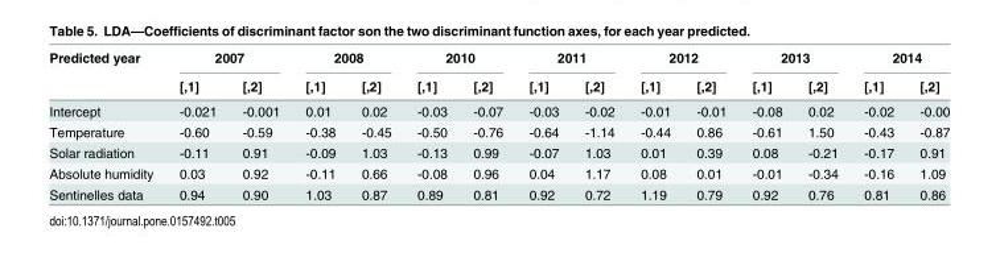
<table><thead><tr><td rowspan="2">Predicted year</td><td colspan="2">2007</td><td colspan="2">2008</td><td colspan="2">2010</td><td colspan="2">2011</td><td colspan="2">2012</td><td colspan="2">2013</td><td colspan="2">2014</td></tr><tr><td>[,1]</td><td>[,2]</td><td>[,1]</td><td>[,2]</td><td>[,1]</td><td>[,2]</td><td>[,1]</td><td>[,2]</td><td>[,1]</td><td>[,2]</td><td>[,1]</td><td>[,2]</td><td>[,1]</td><td>[,2]</td></tr></thead><tbody><tr><td>Intercept</td><td>-0.021</td><td>-0.001</td><td>0.01</td><td>0.02</td><td>-0.03</td><td>-0.07</td><td>-0.03</td><td>-0.02</td><td>-0.01</td><td>-0.01</td><td>-0.08</td><td>0.02</td><td>-0.02</td><td>-0.00</td></tr><tr><td>Temperature</td><td>-0.60</td><td>-0.59</td><td>-0.38</td><td>-0.45</td><td>-0.50</td><td>-0.76</td><td>-0.64</td><td>-1.14</td><td>-0.44</td><td>0.86</td><td>-0.61</td><td>1.50</td><td>-0.43</td><td>-0.87</td></tr><tr><td>Solar radiation</td><td>-0.11</td><td>0.91</td><td>-0.09</td><td>1.03</td><td>-0.13</td><td>0.99</td><td>-0.07</td><td>1.03</td><td>0.01</td><td>0.39</td><td>0.08</td><td>-0.21</td><td>-0.17</td><td>0.91</td></tr><tr><td>Absolute humidity</td><td>0.03</td><td>0.92</td><td>-0.11</td><td>0.66</td><td>-0.08</td><td>0.96</td><td>0.04</td><td>1.17</td><td>0.08</td><td>0.01</td><td>-0.01</td><td>-0.34</td><td>-0.16</td><td>1.09</td></tr><tr><td>Sentinelles data</td><td>0.94</td><td>0.90</td><td>1.03</td><td>0.87</td><td>0.89</td><td>0.81</td><td>0.92</td><td>0.72</td><td>1.19</td><td>0.79</td><td>0.92</td><td>0.76</td><td>0.81</td><td>0.86</td></tr></tbody></table>